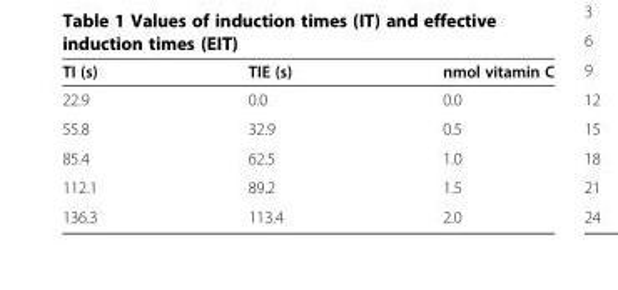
<table><thead><tr><td>TI (s)</td><td>TIE (s)</td><td>nmol vitamin C</td></tr></thead><tbody><tr><td>22.9</td><td>0.0</td><td>0.0</td></tr><tr><td>55.8</td><td>32.9</td><td>0.5</td></tr><tr><td>85.4</td><td>62.5</td><td>1.0</td></tr><tr><td>112.1</td><td>89.2</td><td>1.5</td></tr><tr><td>136.3</td><td>113.4</td><td>2.0</td></tr></tbody></table>